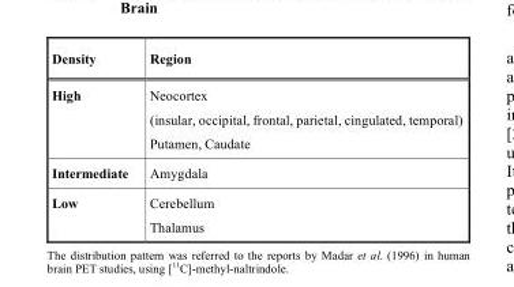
<table><thead><tr><td>Density</td><td>Region</td></tr></thead><tbody><tr><td>High</td><td>Neocortex (insular, occipital, frontal, parietal, cingulated, temporal) Putamen, Caudate</td></tr><tr><td>Intermediate</td><td>Amygdala</td></tr><tr><td>Low</td><td>Cerebellum Thalamus</td></tr></tbody></table>